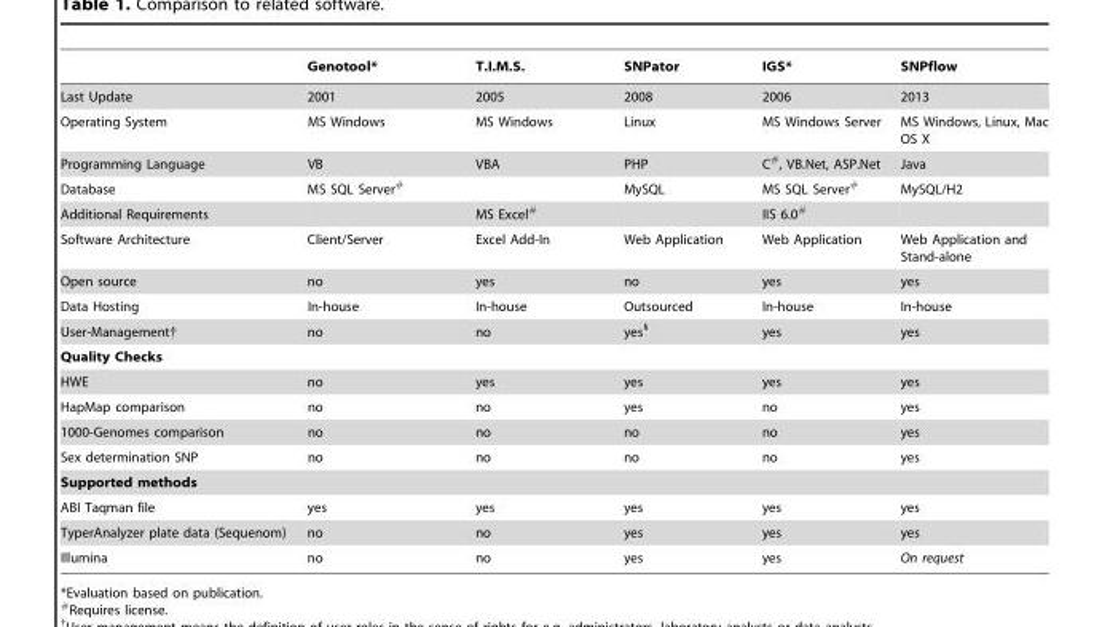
<table><thead><tr><td></td><td>Genotool*</td><td>T.I.M.S.</td><td>SNPator</td><td>IGS*</td><td>SNPflow</td></tr></thead><tbody><tr><td>Last Update</td><td>2001</td><td>2005</td><td>2008</td><td>2006</td><td>2013</td></tr><tr><td>Operating System</td><td>MS Windows</td><td>MS Windows</td><td>Linux</td><td>MS Windows Server</td><td>MS Windows, Linux, Mac OS X</td></tr><tr><td>Programming Language</td><td>VB</td><td>VBA</td><td>PHP</td><td>C#, VB.Net, ASP.Net</td><td>Java</td></tr><tr><td>Database</td><td>MS SQL Server#</td><td></td><td>MySQL</td><td>MS SQL Server#</td><td>MySQL/H2</td></tr><tr><td>Additional Requirements</td><td></td><td>MS Excel#</td><td></td><td>IIS 6.0#</td><td></td></tr><tr><td>Software Architecture</td><td>Client/Server</td><td>Excel Add-In</td><td>Web Application</td><td>Web Application</td><td>Web Application and Stand-alone</td></tr><tr><td>Open source</td><td>no</td><td>yes</td><td>no</td><td>yes</td><td>yes</td></tr><tr><td>Data Hosting</td><td>In-house</td><td>In-house</td><td>Outsourced</td><td>In-house</td><td>In-house</td></tr><tr><td>User-Management†</td><td>no</td><td>no</td><td>yes§</td><td>yes</td><td>yes</td></tr><tr><td colspan="6">Quality Checks</td></tr><tr><td>HWE</td><td>no</td><td>yes</td><td>yes</td><td>yes</td><td>yes</td></tr><tr><td>HapMap comparison</td><td>no</td><td>no</td><td>yes</td><td>no</td><td>yes</td></tr><tr><td>1000-Genomes comparison</td><td>no</td><td>no</td><td>no</td><td>no</td><td>yes</td></tr><tr><td>Sex determination SNP</td><td>no</td><td>no</td><td>no</td><td>no</td><td>yes</td></tr><tr><td colspan="6">Supported methods</td></tr><tr><td>ABI Taqman file</td><td>yes</td><td>yes</td><td>yes</td><td>yes</td><td>yes</td></tr><tr><td>TyperAnalyzer plate data (Sequenom)</td><td>no</td><td>no</td><td>yes</td><td>yes</td><td>yes</td></tr><tr><td>Illumina</td><td>no</td><td>no</td><td>yes</td><td>yes</td><td>On request</td></tr></tbody></table>